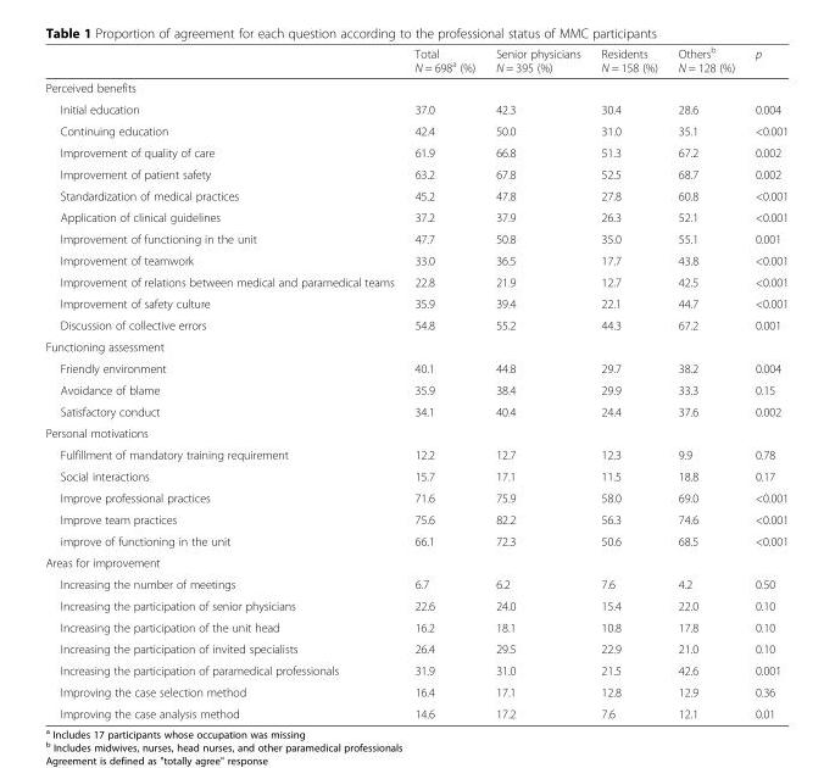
<table><thead><tr><td></td><td>Total N = 698<sup>a</sup> (%)</td><td>Senior physicians N = 395 (%)</td><td>Residents N = 158 (%)</td><td>Others<sup>b</sup> N = 128 (%)</td><td>p</td></tr></thead><tbody><tr><td colspan="6">Perceived benefits</td></tr><tr><td>Initial education</td><td>37.0</td><td>42.3</td><td>30.4</td><td>28.6</td><td>0.004</td></tr><tr><td>Continuing education</td><td>42.4</td><td>50.0</td><td>31.0</td><td>35.1</td><td>&lt;0.001</td></tr><tr><td>Improvement of quality of care</td><td>61.9</td><td>66.8</td><td>51.3</td><td>67.2</td><td>0.002</td></tr><tr><td>Improvement of patient safety</td><td>63.2</td><td>67.8</td><td>52.5</td><td>68.7</td><td>0.002</td></tr><tr><td>Standardization of medical practices</td><td>45.2</td><td>47.8</td><td>27.8</td><td>60.8</td><td>&lt;0.001</td></tr><tr><td>Application of clinical guidelines</td><td>37.2</td><td>37.9</td><td>26.3</td><td>52.1</td><td>&lt;0.001</td></tr><tr><td>Improvement of functioning in the unit</td><td>47.7</td><td>50.8</td><td>35.0</td><td>55.1</td><td>0.001</td></tr><tr><td>Improvement of teamwork</td><td>33.0</td><td>36.5</td><td>17.7</td><td>43.8</td><td>&lt;0.001</td></tr><tr><td>Improvement of relations between medical and paramedical teams</td><td>22.8</td><td>21.9</td><td>12.7</td><td>42.5</td><td>&lt;0.001</td></tr><tr><td>Improvement of safety culture</td><td>35.9</td><td>39.4</td><td>22.1</td><td>44.7</td><td>&lt;0.001</td></tr><tr><td>Discussion of collective errors</td><td>54.8</td><td>55.2</td><td>44.3</td><td>67.2</td><td>0.001</td></tr><tr><td colspan="6">Functioning assessment</td></tr><tr><td>Friendly environment</td><td>40.1</td><td>44.8</td><td>29.7</td><td>38.2</td><td>0.004</td></tr><tr><td>Avoidance of blame</td><td>35.9</td><td>38.4</td><td>29.9</td><td>33.3</td><td>0.15</td></tr><tr><td>Satisfactory conduct</td><td>34.1</td><td>40.4</td><td>24.4</td><td>37.6</td><td>0.002</td></tr><tr><td colspan="6">Personal motivations</td></tr><tr><td>Fulfillment of mandatory training requirement</td><td>12.2</td><td>12.7</td><td>12.3</td><td>9.9</td><td>0.78</td></tr><tr><td>Social interactions</td><td>15.7</td><td>17.1</td><td>11.5</td><td>18.8</td><td>0.17</td></tr><tr><td>Improve professional practices</td><td>71.6</td><td>75.9</td><td>58.0</td><td>69.0</td><td>&lt;0.001</td></tr><tr><td>Improve team practices</td><td>75.6</td><td>82.2</td><td>56.3</td><td>74.6</td><td>&lt;0.001</td></tr><tr><td>improve of functioning in the unit</td><td>66.1</td><td>72.3</td><td>50.6</td><td>68.5</td><td>&lt;0.001</td></tr><tr><td colspan="6">Areas for improvement</td></tr><tr><td>Increasing the number of meetings</td><td>6.7</td><td>6.2</td><td>7.6</td><td>4.2</td><td>0.50</td></tr><tr><td>Increasing the participation of senior physicians</td><td>22.6</td><td>24.0</td><td>15.4</td><td>22.0</td><td>0.10</td></tr><tr><td>Increasing the participation of the unit head</td><td>16.2</td><td>18.1</td><td>10.8</td><td>17.8</td><td>0.10</td></tr><tr><td>Increasing the participation of invited specialists</td><td>26.4</td><td>29.5</td><td>22.9</td><td>21.0</td><td>0.10</td></tr><tr><td>Increasing the participation of paramedical professionals</td><td>31.9</td><td>31.0</td><td>21.5</td><td>42.6</td><td>0.001</td></tr><tr><td>Improving the case selection method</td><td>16.4</td><td>17.1</td><td>12.8</td><td>12.9</td><td>0.36</td></tr><tr><td>Improving the case analysis method</td><td>14.6</td><td>17.2</td><td>7.6</td><td>12.1</td><td>0.01</td></tr></tbody></table>